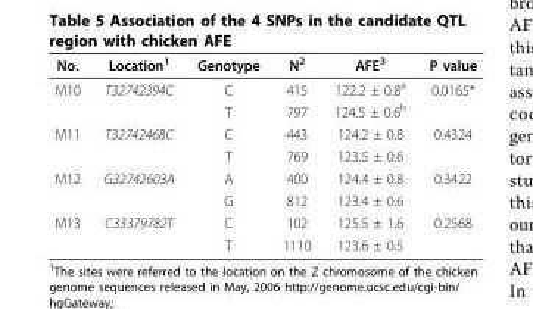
<table><thead><tr><td>No.</td><td>Location<sup>1</sup></td><td>Genotype</td><td>N<sup>2</sup></td><td>AFE<sup>3</sup></td><td>P value</td></tr></thead><tbody><tr><td rowspan="2">M10</td><td>T32742394C</td><td>C</td><td>415</td><td>122.2 ± 0.8<sup>a</sup></td><td>0.0165*</td></tr><tr><td></td><td>T</td><td>797</td><td>124.5 ± 0.6<sup>b</sup></td><td></td></tr><tr><td rowspan="2">M11</td><td>T32742468C</td><td>C</td><td>443</td><td>124.2 ± 0.8</td><td>0.4324</td></tr><tr><td></td><td>T</td><td>769</td><td>123.5 ± 0.6</td><td></td></tr><tr><td rowspan="2">M12</td><td>G32742603A</td><td>A</td><td>400</td><td>124.4 ± 0.8</td><td>0.3422</td></tr><tr><td></td><td>G</td><td>812</td><td>123.4 ± 0.6</td><td></td></tr><tr><td rowspan="2">M13</td><td>C33379782T</td><td>C</td><td>102</td><td>125.5 ± 1.6</td><td>0.2568</td></tr><tr><td></td><td>T</td><td>1110</td><td>123.6 ± 0.5</td><td></td></tr></tbody></table>